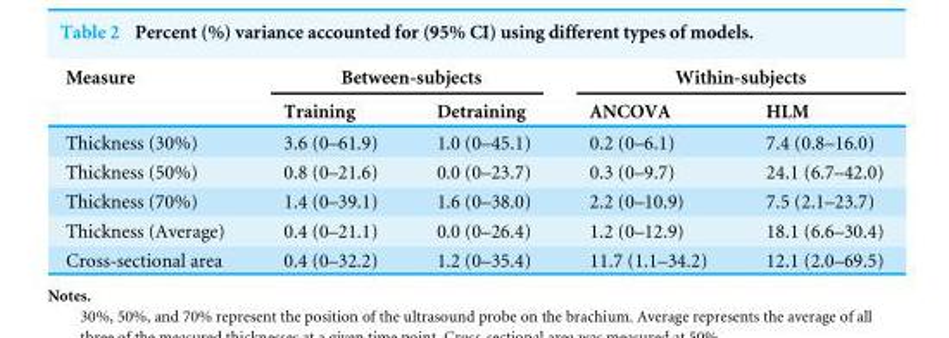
<table><thead><tr><td rowspan="2">Measure</td><td colspan="2">Between-subjects</td><td colspan="2">Within-subjects</td></tr><tr><td>Training</td><td>Detraining</td><td>ANCOVA</td><td>HLM</td></tr></thead><tbody><tr><td>Thickness (30%)</td><td>3.6 (0–61.9)</td><td>1.0 (0–45.1)</td><td>0.2 (0–6.1)</td><td>7.4 (0.8–16.0)</td></tr><tr><td>Thickness (50%)</td><td>0.8 (0–21.6)</td><td>0.0 (0–23.7)</td><td>0.3 (0–9.7)</td><td>24.1 (6.7–42.0)</td></tr><tr><td>Thickness (70%)</td><td>1.4 (0–39.1)</td><td>1.6 (0–38.0)</td><td>2.2 (0–10.9)</td><td>7.5 (2.1–23.7)</td></tr><tr><td>Thickness (Average)</td><td>0.4 (0–21.1)</td><td>0.0 (0–26.4)</td><td>1.2 (0–12.9)</td><td>18.1 (6.6–30.4)</td></tr><tr><td>Cross-sectional area</td><td>0.4 (0–32.2)</td><td>1.2 (0–35.4)</td><td>11.7 (1.1–34.2)</td><td>12.1 (2.0–69.5)</td></tr></tbody></table>